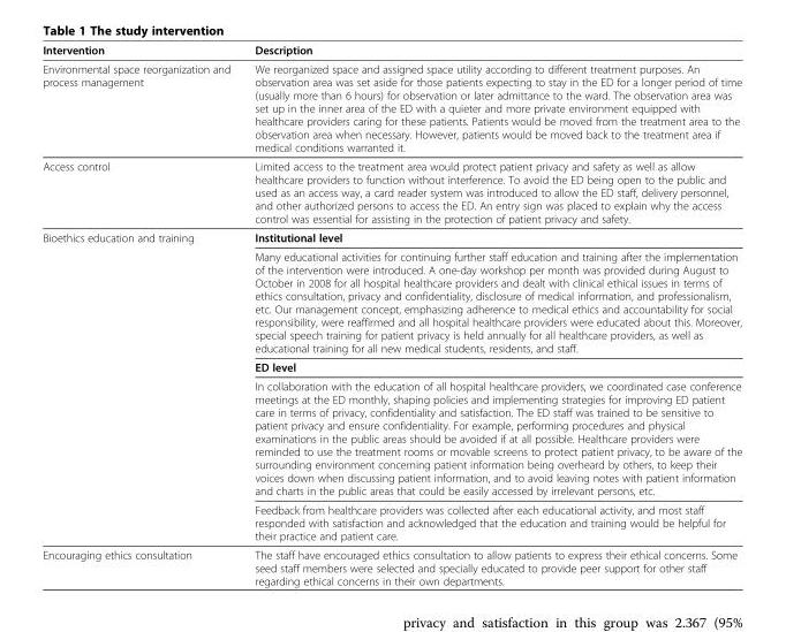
<table><thead><tr><td>Intervention</td><td>Description</td></tr></thead><tbody><tr><td>Environmental space reorganization and process management</td><td>We reorganized space and assigned space utility according to different treatment purposes. An observation area was set aside for those patients expecting to stay in the ED for a longer period of time (usually more than 6 hours) for observation or later admittance to the ward. The observation area was set up in the inner area of the ED with a quieter and more private environment equipped with healthcare providers caring for these patients. Patients would be moved from the treatment area to the observation area when necessary. However, patients would be moved back to the treatment area if medical conditions warranted it.</td></tr><tr><td>Access control</td><td>Limited access to the treatment area would protect patient privacy and safety as well as allow healthcare providers to function without interference. To avoid the ED being open to the public and used as an access way, a card reader system was introduced to allow the ED staff, delivery personnel, and other authorized persons to access the ED. An entry sign was placed to explain why the access control was essential for assisting in the protection of patient privacy and safety.</td></tr><tr><td rowspan="5">Bioethics education and training</td><td>Institutional level</td></tr><tr><td>Many educational activities for continuing further staff education and training after the implementation of the intervention were introduced. A one-day workshop per month was provided during August to October in 2008 for all hospital healthcare providers and dealt with clinical ethical issues in terms of ethics consultation, privacy and confidentiality, disclosure of medical information, and professionalism, etc. Our management concept, emphasizing adherence to medical ethics and accountability for social responsibility, were reaffirmed and all hospital healthcare providers were educated about this. Moreover, special speech training for patient privacy is held annually for all healthcare providers, as well as educational training for all new medical students, residents, and staff.</td></tr><tr><td>ED level</td></tr><tr><td>In collaboration with the education of all hospital healthcare providers, we coordinated case conference meetings at the ED monthly, shaping policies and implementing strategies for improving ED patient care in terms of privacy, confidentiality and satisfaction. The ED staff was trained to be sensitive to patient privacy and ensure confidentiality. For example, performing procedures and physical examinations in the public areas should be avoided if at all possible. Healthcare providers were reminded to use the treatment rooms or movable screens to protect patient privacy, to be aware of the surrounding environment concerning patient information being overheard by others, to keep their voices down when discussing patient information, and to avoid leaving notes with patient information and charts in the public areas that could be easily accessed by irrelevant persons, etc.</td></tr><tr><td>Feedback from healthcare providers was collected after each educational activity, and most staff responded with satisfaction and acknowledged that the education and training would be helpful for their practice and patient care.</td></tr><tr><td>Encouraging ethics consultation</td><td>The staff have encouraged ethics consultation to allow patients to express their ethical concerns. Some seed staff members were selected and specially educated to provide peer support for other staff regarding ethical concerns in their own departments.</td></tr></tbody></table>